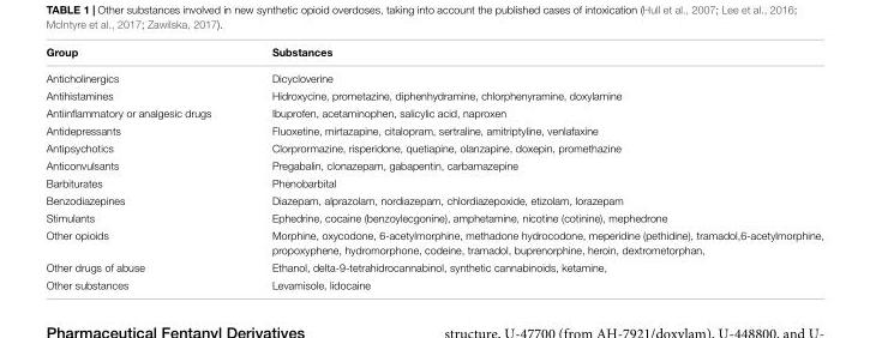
<table><thead><tr><td>Group</td><td>Substances</td></tr></thead><tbody><tr><td>Anticholinergics</td><td>Dicycloverine</td></tr><tr><td>Antihistamines</td><td>Hidroxycine, prometazine, diphenhydramine, chlorphenyramine, doxylamine</td></tr><tr><td>Antiinflammatory or analgesic drugs</td><td>Ibuprofen, acetaminophen, salicylic acid, naproxen</td></tr><tr><td>Antidepressants</td><td>Fluoxetine, mirtazapine, citalopram, sertraline, amitriptyline, venlafaxine</td></tr><tr><td>Antipsychotics</td><td>Clorprormazine, risperidone, quetiapine, olanzapine, doxepin, promethazine</td></tr><tr><td>Anticonvulsants</td><td>Pregabalin, clonazepam, gabapentin, carbamazepine</td></tr><tr><td>Barbiturates</td><td>Phenobarbital</td></tr><tr><td>Benzodiazepines</td><td>Diazepam, alprazolam, nordiazepam, chlordiazepoxide, etizolam, lorazepam</td></tr><tr><td>Stimulants</td><td>Ephedrine, cocaine (benzoylecgonine), amphetamine, nicotine (cotinine), mephedrone</td></tr><tr><td>Other opioids</td><td>Morphine, oxycodone, 6-acetylmorphine, methadone hydrocodone, meperidine (pethidine), tramadol,6-acetylmorphine, propoxyphene, hydromorphone, codeine, tramadol, buprenorphine, heroin, dextrometorphan,</td></tr><tr><td>Other drugs of abuse</td><td>Ethanol, delta-9-tetrahidrocannabinol, synthetic cannabinoids, ketamine,</td></tr><tr><td>Other substances</td><td>Levamisole, lidocaine</td></tr></tbody></table>